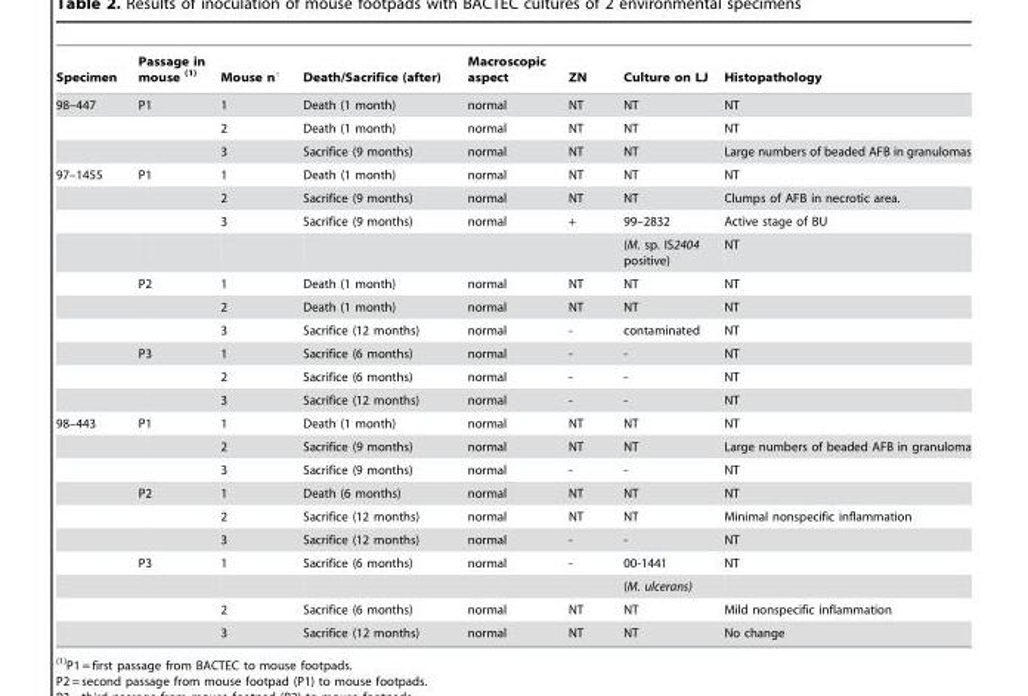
<table><thead><tr><td>Specimen</td><td>Passage in mouse (1)</td><td>Mouse n°</td><td>Death/Sacrifice (after)</td><td>Macroscopic aspect</td><td>ZN</td><td>Culture on LJ</td><td>Histopathology</td></tr></thead><tbody><tr><td rowspan="3">98–447</td><td>P1</td><td>1</td><td>Death (1 month)</td><td>normal</td><td>NT</td><td>NT</td><td>NT</td></tr><tr><td></td><td>2</td><td>Death (1 month)</td><td>normal</td><td>NT</td><td>NT</td><td>NT</td></tr><tr><td></td><td>3</td><td>Sacrifice (9 months)</td><td>normal</td><td>NT</td><td>NT</td><td>Large numbers of beaded AFB in granulomas</td></tr><tr><td rowspan="10">97–1455</td><td>P1</td><td>1</td><td>Death (1 month)</td><td>normal</td><td>NT</td><td>NT</td><td>NT</td></tr><tr><td></td><td>2</td><td>Sacrifice (9 months)</td><td>normal</td><td>NT</td><td>NT</td><td>Clumps of AFB in necrotic area.</td></tr><tr><td></td><td>3</td><td>Sacrifice (9 months)</td><td>normal</td><td>+</td><td>99–2832</td><td>Active stage of BU</td></tr><tr><td></td><td></td><td></td><td></td><td></td><td>(M. sp. IS2404 positive)</td><td>NT</td></tr><tr><td>P2</td><td>1</td><td>Death (1 month)</td><td>normal</td><td>NT</td><td>NT</td><td>NT</td></tr><tr><td></td><td>2</td><td>Death (1 month)</td><td>normal</td><td>NT</td><td>NT</td><td>NT</td></tr><tr><td></td><td>3</td><td>Sacrifice (12 months)</td><td>normal</td><td>-</td><td>contaminated</td><td>NT</td></tr><tr><td>P3</td><td>1</td><td>Sacrifice (6 months)</td><td>normal</td><td>-</td><td>-</td><td>NT</td></tr><tr><td></td><td>2</td><td>Sacrifice (6 months)</td><td>normal</td><td>-</td><td>-</td><td>NT</td></tr><tr><td></td><td>3</td><td>Sacrifice (12 months)</td><td>normal</td><td>-</td><td>-</td><td>NT</td></tr><tr><td rowspan="10">98–443</td><td>P1</td><td>1</td><td>Death (1 month)</td><td>normal</td><td>NT</td><td>NT</td><td>NT</td></tr><tr><td></td><td>2</td><td>Sacrifice (9 months)</td><td>normal</td><td>NT</td><td>NT</td><td>Large numbers of beaded AFB in granuloma</td></tr><tr><td></td><td>3</td><td>Sacrifice (9 months)</td><td>normal</td><td>-</td><td>-</td><td>NT</td></tr><tr><td>P2</td><td>1</td><td>Death (6 months)</td><td>normal</td><td>NT</td><td>NT</td><td>NT</td></tr><tr><td></td><td>2</td><td>Sacrifice (12 months)</td><td>normal</td><td>NT</td><td>NT</td><td>Minimal nonspecific inflammation</td></tr><tr><td></td><td>3</td><td>Sacrifice (12 months)</td><td>normal</td><td>-</td><td>-</td><td>NT</td></tr><tr><td>P3</td><td>1</td><td>Sacrifice (6 months)</td><td>normal</td><td>-</td><td>00-1441</td><td>NT</td></tr><tr><td></td><td></td><td></td><td></td><td></td><td>(M. ulcerans)</td><td></td></tr><tr><td></td><td>2</td><td>Sacrifice (6 months)</td><td>normal</td><td>NT</td><td>NT</td><td>Mild nonspecific inflammation</td></tr><tr><td></td><td>3</td><td>Sacrifice (12 months)</td><td>normal</td><td>NT</td><td>NT</td><td>No change</td></tr></tbody></table>